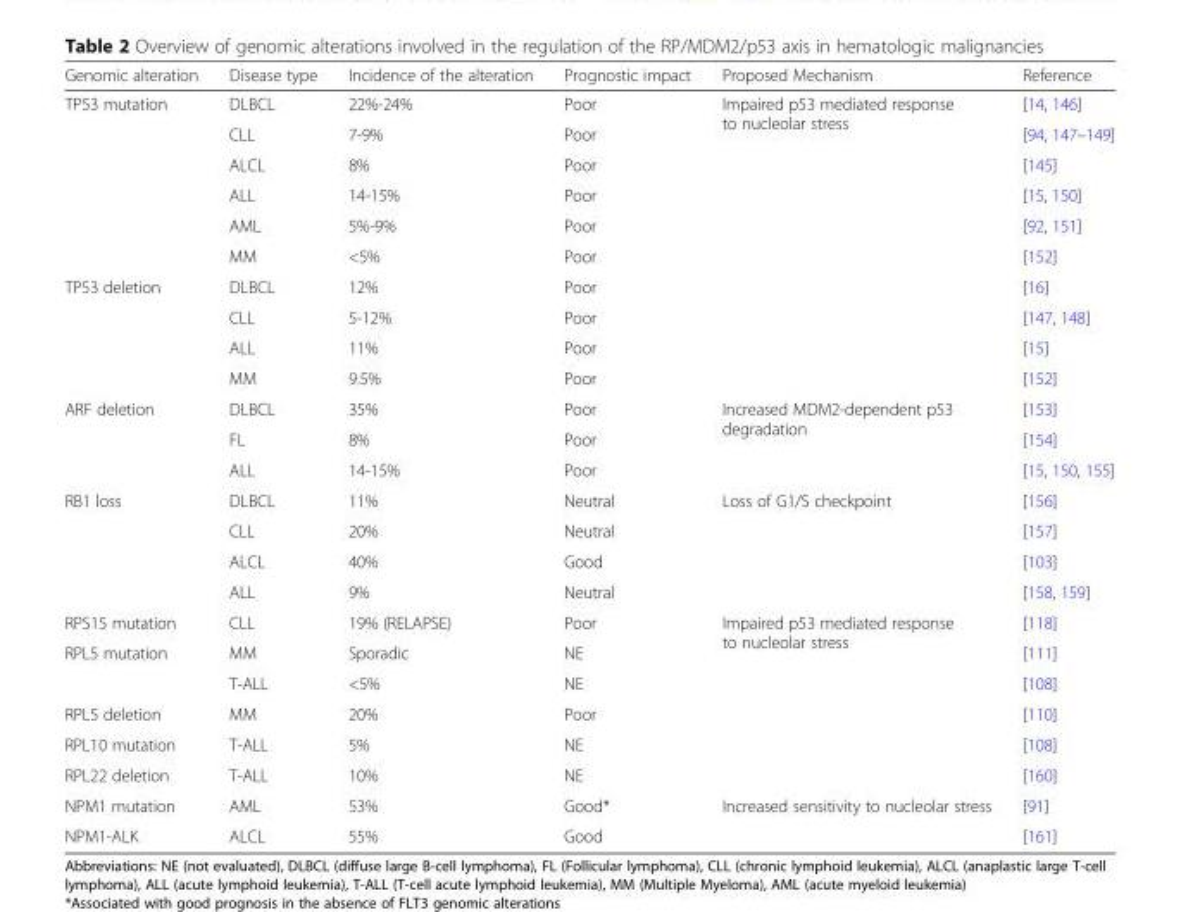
<table><thead><tr><td>Genomic alteration</td><td>Disease type</td><td>Incidence of the alteration</td><td>Prognostic impact</td><td>Proposed Mechanism</td><td>Reference</td></tr></thead><tbody><tr><td rowspan="6">TP53 mutation</td><td>DLBCL</td><td>22%-24%</td><td>Poor</td><td rowspan="10">Impaired p53 mediated response to nucleolar stress</td><td>[14, 146]</td></tr><tr><td>CLL</td><td>7-9%</td><td>Poor</td><td>[94, 147–149]</td></tr><tr><td>ALCL</td><td>8%</td><td>Poor</td><td>[145]</td></tr><tr><td>ALL</td><td>14-15%</td><td>Poor</td><td>[15, 150]</td></tr><tr><td>AML</td><td>5%-9%</td><td>Poor</td><td>[92, 151]</td></tr><tr><td>MM</td><td>&lt;5%</td><td>Poor</td><td>[152]</td></tr><tr><td rowspan="4">TP53 deletion</td><td>DLBCL</td><td>12%</td><td>Poor</td><td>[16]</td></tr><tr><td>CLL</td><td>5-12%</td><td>Poor</td><td>[147, 148]</td></tr><tr><td>ALL</td><td>11%</td><td>Poor</td><td>[15]</td></tr><tr><td>MM</td><td>9.5%</td><td>Poor</td><td>[152]</td></tr><tr><td rowspan="3">ARF deletion</td><td>DLBCL</td><td>35%</td><td>Poor</td><td rowspan="3">Increased MDM2-dependent p53 degradation</td><td>[153]</td></tr><tr><td>FL</td><td>8%</td><td>Poor</td><td>[154]</td></tr><tr><td>ALL</td><td>14-15%</td><td>Poor</td><td>[15, 150, 155]</td></tr><tr><td rowspan="4">RB1 loss</td><td>DLBCL</td><td>11%</td><td>Neutral</td><td rowspan="4">Loss of G1/S checkpoint</td><td>[156]</td></tr><tr><td>CLL</td><td>20%</td><td>Neutral</td><td>[157]</td></tr><tr><td>ALCL</td><td>40%</td><td>Good</td><td>[103]</td></tr><tr><td>ALL</td><td>9%</td><td>Neutral</td><td>[158, 159]</td></tr><tr><td>RPS15 mutation</td><td>CLL</td><td>19% (RELAPSE)</td><td>Poor</td><td rowspan="6">Impaired p53 mediated response to nucleolar stress</td><td>[118]</td></tr><tr><td rowspan="2">RPL5 mutation</td><td>MM</td><td>Sporadic</td><td>NE</td><td>[111]</td></tr><tr><td>T-ALL</td><td>&lt;5%</td><td>NE</td><td>[108]</td></tr><tr><td>RPL5 deletion</td><td>MM</td><td>20%</td><td>Poor</td><td>[110]</td></tr><tr><td>RPL10 mutation</td><td>T-ALL</td><td>5%</td><td>NE</td><td>[108]</td></tr><tr><td>RPL22 deletion</td><td>T-ALL</td><td>10%</td><td>NE</td><td>[160]</td></tr><tr><td>NPM1 mutation</td><td>AML</td><td>53%</td><td>Good*</td><td rowspan="2">Increased sensitivity to nucleolar stress</td><td>[91]</td></tr><tr><td>NPM1-ALK</td><td>ALCL</td><td>55%</td><td>Good</td><td>[161]</td></tr></tbody></table>